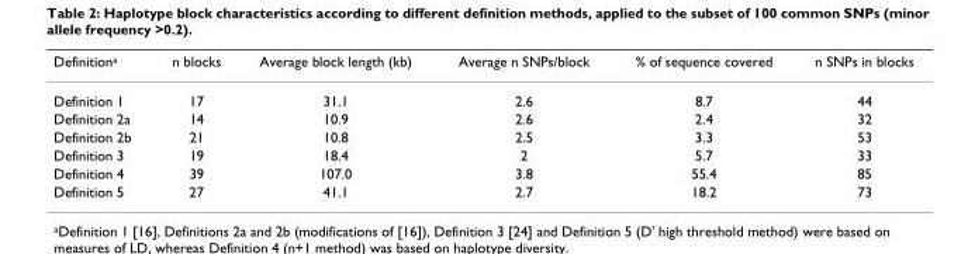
<table><thead><tr><td>Definition<sup>a</sup></td><td>n blocks</td><td>Average block length (kb)</td><td>Average n SNPs/block</td><td>% of sequence covered</td><td>n SNPs in blocks</td></tr></thead><tbody><tr><td>Definition 1</td><td>17</td><td>31.1</td><td>2.6</td><td>8.7</td><td>44</td></tr><tr><td>Definition 2a</td><td>14</td><td>10.9</td><td>2.6</td><td>2.4</td><td>32</td></tr><tr><td>Definition 2b</td><td>21</td><td>10.8</td><td>2.5</td><td>3.3</td><td>53</td></tr><tr><td>Definition 3</td><td>19</td><td>18.4</td><td>2</td><td>5.7</td><td>33</td></tr><tr><td>Definition 4</td><td>39</td><td>107.0</td><td>3.8</td><td>55.4</td><td>85</td></tr><tr><td>Definition 5</td><td>27</td><td>41.1</td><td>2.7</td><td>18.2</td><td>73</td></tr></tbody></table>